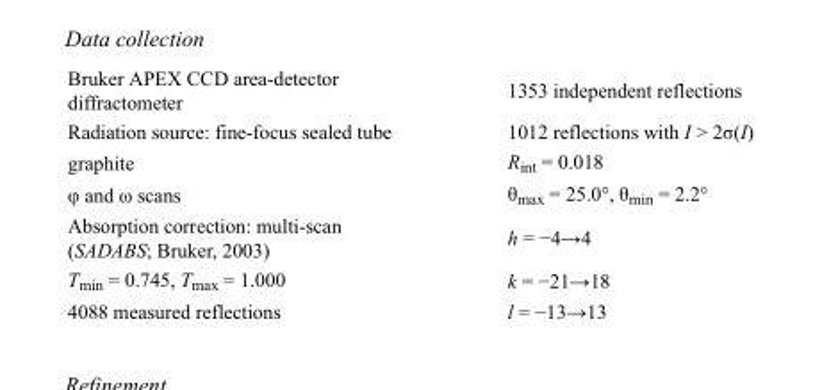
<table><tbody><tr><td>Bruker APEX CCD area-detector diffractometer</td><td>1353 independent reflections</td></tr><tr><td>Radiation source: fine-focus sealed tube</td><td>1012 reflections with I &gt; 2σ(I)</td></tr><tr><td>graphite</td><td>R<sub>int</sub> = 0.018</td></tr><tr><td>φ and ω scans</td><td>θ<sub>max</sub> = 25.0°, θ<sub>min</sub> = 2.2°</td></tr><tr><td>Absorption correction: multi-scan (SADABS; Bruker, 2003)</td><td>h = −4→4</td></tr><tr><td>T<sub>min</sub> = 0.745, T<sub>max</sub> = 1.000</td><td>k = −21→18</td></tr><tr><td>4088 measured reflections</td><td>l = −13→13</td></tr></tbody></table>